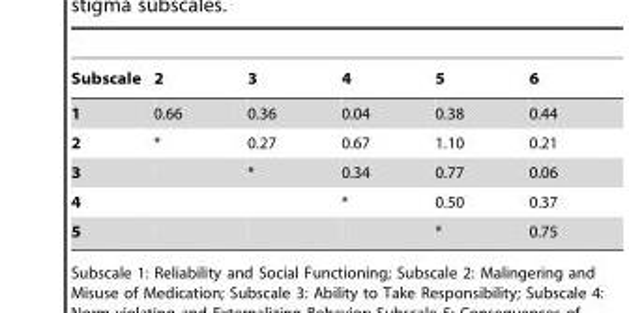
<table><thead><tr><td>Subscale</td><td>2</td><td>3</td><td>4</td><td>5</td><td>6</td></tr></thead><tbody><tr><td>1</td><td>0.66</td><td>0.36</td><td>0.04</td><td>0.38</td><td>0.44</td></tr><tr><td>2</td><td>*</td><td>0.27</td><td>0.67</td><td>1.10</td><td>0.21</td></tr><tr><td>3</td><td></td><td>*</td><td>0.34</td><td>0.77</td><td>0.06</td></tr><tr><td>4</td><td></td><td></td><td>*</td><td>0.50</td><td>0.37</td></tr><tr><td>5</td><td></td><td></td><td></td><td>*</td><td>0.75</td></tr></tbody></table>